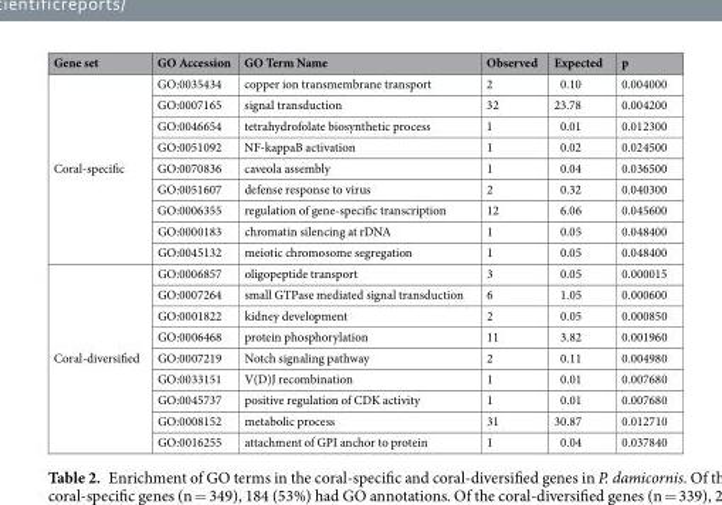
<table><thead><tr><td>Gene set</td><td>GO Accession</td><td>GO Term Name</td><td>Observed</td><td>Expected</td><td>p</td></tr></thead><tbody><tr><td rowspan="9">Coral-specific</td><td>GO:0035434</td><td>copper ion transmembrane transport</td><td>2</td><td>0.10</td><td>0.004000</td></tr><tr><td>GO:0007165</td><td>signal transduction</td><td>32</td><td>23.78</td><td>0.004200</td></tr><tr><td>GO:0046654</td><td>tetrahydrofolate biosynthetic process</td><td>1</td><td>0.01</td><td>0.012300</td></tr><tr><td>GO:0051092</td><td>NF-kappaB activation</td><td>1</td><td>0.02</td><td>0.024500</td></tr><tr><td>GO:0070836</td><td>caveola assembly</td><td>1</td><td>0.04</td><td>0.036500</td></tr><tr><td>GO:0051607</td><td>defense response to virus</td><td>2</td><td>0.32</td><td>0.040300</td></tr><tr><td>GO:0006355</td><td>regulation of gene-specific transcription</td><td>12</td><td>6.06</td><td>0.045600</td></tr><tr><td>GO:0000183</td><td>chromatin silencing at rDNA</td><td>1</td><td>0.05</td><td>0.048400</td></tr><tr><td>GO:0045132</td><td>meiotic chromosome segregation</td><td>1</td><td>0.05</td><td>0.048400</td></tr><tr><td rowspan="9">Coral-diversified</td><td>GO:0006857</td><td>oligopeptide transport</td><td>3</td><td>0.05</td><td>0.000015</td></tr><tr><td>GO:0007264</td><td>small GTPase mediated signal transduction</td><td>6</td><td>1.05</td><td>0.000600</td></tr><tr><td>GO:0001822</td><td>kidney development</td><td>2</td><td>0.05</td><td>0.000850</td></tr><tr><td>GO:0006468</td><td>protein phosphorylation</td><td>11</td><td>3.82</td><td>0.001960</td></tr><tr><td>GO:0007219</td><td>Notch signaling pathway</td><td>2</td><td>0.11</td><td>0.004980</td></tr><tr><td>GO:0033151</td><td>V(D)J recombination</td><td>1</td><td>0.01</td><td>0.007680</td></tr><tr><td>GO:0045737</td><td>positive regulation of CDK activity</td><td>1</td><td>0.01</td><td>0.007680</td></tr><tr><td>GO:0008152</td><td>metabolic process</td><td>31</td><td>30.87</td><td>0.012710</td></tr><tr><td>GO:0016255</td><td>attachment of GPI anchor to protein</td><td>1</td><td>0.04</td><td>0.037840</td></tr></tbody></table>